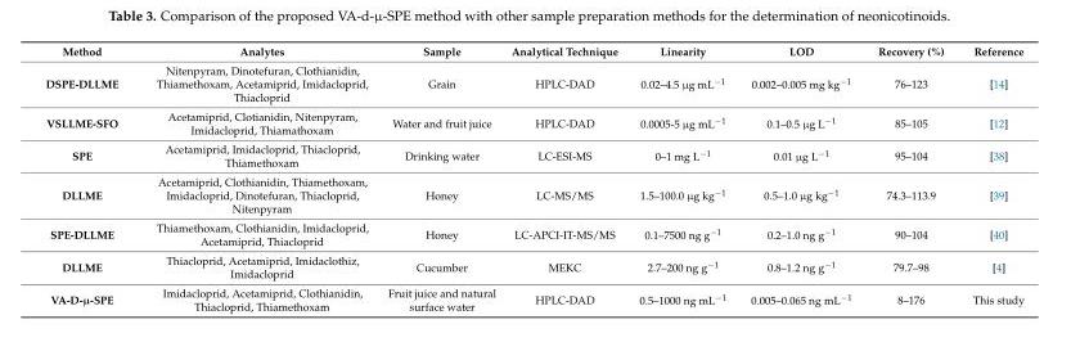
<table><thead><tr><td>Method</td><td>Analytes</td><td>Sample</td><td>Analytical Technique</td><td>Linearity</td><td>LOD</td><td>Recovery (%)</td><td>Reference</td></tr></thead><tbody><tr><td>DSPE-DLLME</td><td>Nitenpyram, Dinotefuran, Clothianidin, Thiamethoxam, Acetamiprid, Imidacloprid, Thiacloprid</td><td>Grain</td><td>HPLC-DAD</td><td>0.02–4.5 µg mL<sup>−1</sup></td><td>0.002–0.005 mg kg<sup>−1</sup></td><td>76–123</td><td>[14]</td></tr><tr><td>VSLLME-SFO</td><td>Acetamiprid, Clotianidin, Nitenpyram, Imidacloprid, Thiamathoxam</td><td>Water and fruit juice</td><td>HPLC-DAD</td><td>0.0005-5 µg mL<sup>−1</sup></td><td>0.1–0.5 µg L<sup>−1</sup></td><td>85–105</td><td>[12]</td></tr><tr><td>SPE</td><td>Acetamiprid, Imidacloprid, Thiacloprid, Thiamethoxam</td><td>Drinking water</td><td>LC-ESI-MS</td><td>0–1 mg L<sup>−1</sup></td><td>0.01 µg L<sup>−1</sup></td><td>95–104</td><td>[38]</td></tr><tr><td>DLLME</td><td>Acetamiprid, Clothianidin, Thiamethoxam, Imidacloprid, Dinotefuran, Thiacloprid, Nitenpyram</td><td>Honey</td><td>LC-MS/MS</td><td>1.5–100.0 µg kg<sup>−1</sup></td><td>0.5–1.0 µg kg<sup>−1</sup></td><td>74.3–113.9</td><td>[39]</td></tr><tr><td>SPE-DLLME</td><td>Thiamethoxam, Clothianidin, Imidacloprid, Acetamiprid, Thiacloprid</td><td>Honey</td><td>LC-APCI-IT-MS/MS</td><td>0.1–7500 ng g<sup>−1</sup></td><td>0.2–1.0 ng g<sup>−1</sup></td><td>90–104</td><td>[40]</td></tr><tr><td>DLLME</td><td>Thiacloprid, Acetamiprid, Imidaclothiz, Imidacloprid</td><td>Cucumber</td><td>MEKC</td><td>2.7–200 ng g<sup>−1</sup></td><td>0.8–1.2 ng g<sup>−1</sup></td><td>79.7–98</td><td>[4]</td></tr><tr><td>VA-D-µ-SPE</td><td>Imidacloprid, Acetamiprid, Clothianidin, Thiacloprid, Thiamethoxam</td><td>Fruit juice and natural surface water</td><td>HPLC-DAD</td><td>0.5–1000 ng mL<sup>−1</sup></td><td>0.005–0.065 ng mL<sup>−1</sup></td><td>8–176</td><td>This study</td></tr></tbody></table>